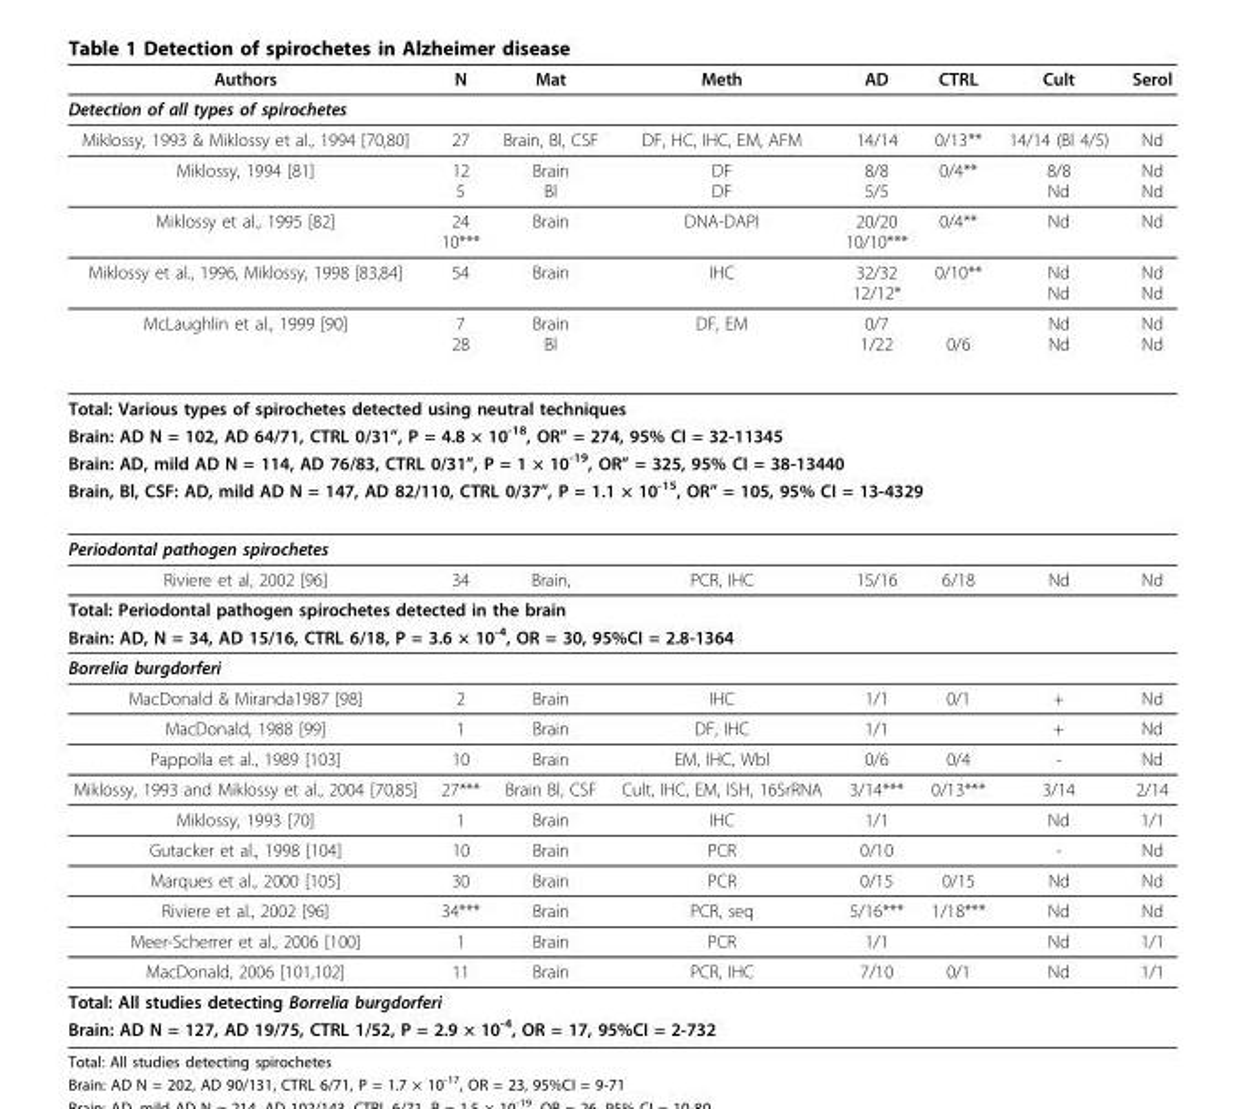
<table><thead><tr><td>Authors</td><td>N</td><td>Mat</td><td>Meth</td><td>AD</td><td>CTRL</td><td>Cult</td><td>Serol</td></tr></thead><tbody><tr><td colspan="8">Detection of all types of spirochetes</td></tr><tr><td>Miklossy, 1993 &amp; Miklossy et al., 1994 [70,80]</td><td>27</td><td>Brain, Bl, CSF</td><td>DF, HC, IHC, EM, AFM</td><td>14/14</td><td>0/13**</td><td>14/14 (Bl 4/5)</td><td>Nd</td></tr><tr><td>Miklossy, 1994 [81]</td><td>12 5</td><td>Brain Bl</td><td>DF DF</td><td>8/8 5/5</td><td>0/4**</td><td>8/8 Nd</td><td>Nd Nd</td></tr><tr><td>Miklossy et al., 1995 [82]</td><td>24 10***</td><td>Brain</td><td>DNA-DAPI</td><td>20/20 10/10***</td><td>0/4**</td><td>Nd</td><td>Nd</td></tr><tr><td>Miklossy et al., 1996, Miklossy, 1998 [83,84]</td><td>54</td><td>Brain</td><td>IHC</td><td>32/32 12/12*</td><td>0/10**</td><td>Nd Nd</td><td>Nd Nd</td></tr><tr><td>McLaughlin et al., 1999 [90]</td><td>7 28</td><td>Brain Bl</td><td>DF, EM</td><td>0/7 1/22</td><td>0/6</td><td>Nd Nd</td><td>Nd Nd</td></tr><tr><td colspan="8">Total: Various types of spirochetes detected using neutral techniques</td></tr><tr><td colspan="8">Brain: AD N = 102, AD 64/71, CTRL 0/31”, P = 4.8 × 10-18, OR” = 274, 95% CI = 32-11345</td></tr><tr><td colspan="8">Brain: AD, mild AD N = 114, AD 76/83, CTRL 0/31”, P = 1 × 10-19, OR” = 325, 95% CI = 38-13440</td></tr><tr><td colspan="8">Brain, Bl, CSF: AD, mild AD N = 147, AD 82/110, CTRL 0/37”, P = 1.1 × 10-15, OR” = 105, 95% CI = 13-4329</td></tr><tr><td colspan="8">Periodontal pathogen spirochetes</td></tr><tr><td>Riviere et al, 2002 [96]</td><td>34</td><td>Brain,</td><td>PCR, IHC</td><td>15/16</td><td>6/18</td><td>Nd</td><td>Nd</td></tr><tr><td colspan="8">Total: Periodontal pathogen spirochetes detected in the brain</td></tr><tr><td colspan="8">Brain: AD, N = 34, AD 15/16, CTRL 6/18, P = 3.6 × 10-4, OR = 30, 95%CI = 2.8-1364</td></tr><tr><td colspan="8">Borrelia burgdorferi</td></tr><tr><td>MacDonald &amp; Miranda1987 [98]</td><td>2</td><td>Brain</td><td>IHC</td><td>1/1</td><td>0/1</td><td>+</td><td>Nd</td></tr><tr><td>MacDonald, 1988 [99]</td><td>1</td><td>Brain</td><td>DF, IHC</td><td>1/1</td><td></td><td>+</td><td>Nd</td></tr><tr><td>Pappolla et al., 1989 [103]</td><td>10</td><td>Brain</td><td>EM, IHC, Wbl</td><td>0/6</td><td>0/4</td><td>-</td><td>Nd</td></tr><tr><td>Miklossy, 1993 and Miklossy et al., 2004 [70,85]</td><td>27***</td><td>Brain Bl, CSF</td><td>Cult, IHC, EM, ISH, 16SrRNA</td><td>3/14***</td><td>0/13***</td><td>3/14</td><td>2/14</td></tr><tr><td>Miklossy, 1993 [70]</td><td>1</td><td>Brain</td><td>IHC</td><td>1/1</td><td></td><td>Nd</td><td>1/1</td></tr><tr><td>Gutacker et al., 1998 [104]</td><td>10</td><td>Brain</td><td>PCR</td><td>0/10</td><td></td><td>-</td><td>Nd</td></tr><tr><td>Marques et al., 2000 [105]</td><td>30</td><td>Brain</td><td>PCR</td><td>0/15</td><td>0/15</td><td>Nd</td><td>Nd</td></tr><tr><td>Riviere et al., 2002 [96]</td><td>34***</td><td>Brain</td><td>PCR, seq</td><td>5/16***</td><td>1/18***</td><td>Nd</td><td>Nd</td></tr><tr><td>Meer-Scherrer et al., 2006 [100]</td><td>1</td><td>Brain</td><td>PCR</td><td>1/1</td><td></td><td>Nd</td><td>1/1</td></tr><tr><td>MacDonald, 2006 [101,102]</td><td>11</td><td>Brain</td><td>PCR, IHC</td><td>7/10</td><td>0/1</td><td>Nd</td><td>1/1</td></tr><tr><td colspan="8">Total: All studies detecting Borrelia burgdorferi</td></tr><tr><td colspan="8">Brain: AD N = 127, AD 19/75, CTRL 1/52, P = 2.9 × 10-4, OR = 17, 95%CI = 2-732</td></tr></tbody></table>